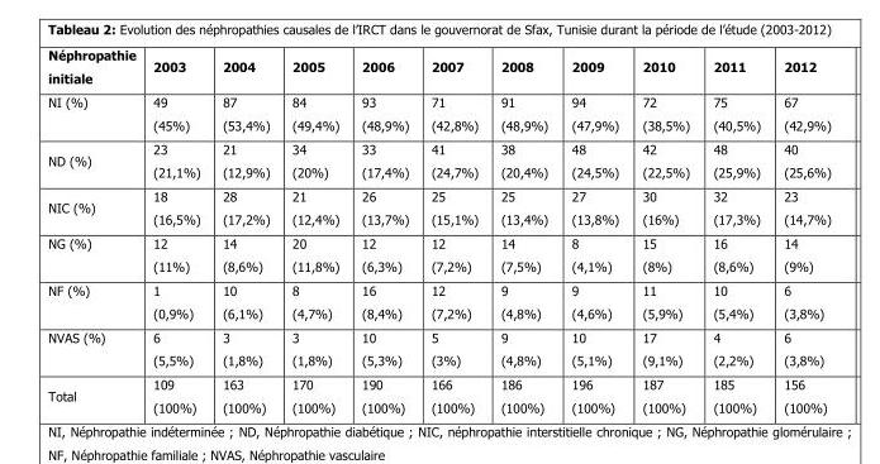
<table><thead><tr><td>Néphropathie initiale</td><td>2003</td><td>2004</td><td>2005</td><td>2006</td><td>2007</td><td>2008</td><td>2009</td><td>2010</td><td>2011</td><td>2012</td></tr></thead><tbody><tr><td>NI (%)</td><td>49 (45%)</td><td>87 (53,4%)</td><td>84 (49,4%)</td><td>93 (48,9%)</td><td>71 (42,8%)</td><td>91 (48,9%)</td><td>94 (47,9%)</td><td>72 (38,5%)</td><td>75 (40,5%)</td><td>67 (42,9%)</td></tr><tr><td>ND (%)</td><td>23 (21,1%)</td><td>21 (12,9%)</td><td>34 (20%)</td><td>33 (17,4%)</td><td>41 (24,7%)</td><td>38 (20,4%)</td><td>48 (24,5%)</td><td>42 (22,5%)</td><td>48 (25,9%)</td><td>40 (25,6%)</td></tr><tr><td>NIC (%)</td><td>18 (16,5%)</td><td>28 (17,2%)</td><td>21 (12,4%)</td><td>26 (13,7%)</td><td>25 (15,1%)</td><td>25 (13,4%)</td><td>27 (13,8%)</td><td>30 (16%)</td><td>32 (17,3%)</td><td>23 (14,7%)</td></tr><tr><td>NG (%)</td><td>12 (11%)</td><td>14 (8,6%)</td><td>20 (11,8%)</td><td>12 (6,3%)</td><td>12 (7,2%)</td><td>14 (7,5%)</td><td>8 (4,1%)</td><td>15 (8%)</td><td>16 (8,6%)</td><td>14 (9%)</td></tr><tr><td>NF (%)</td><td>1 (0,9%)</td><td>10 (6,1%)</td><td>8 (4,7%)</td><td>16 (8,4%)</td><td>12 (7,2%)</td><td>9 (4,8%)</td><td>9 (4,6%)</td><td>11 (5,9%)</td><td>10 (5,4%)</td><td>6 (3,8%)</td></tr><tr><td>NVAS (%)</td><td>6 (5,5%)</td><td>3 (1,8%)</td><td>3 (1,8%)</td><td>10 (5,3%)</td><td>5 (3%)</td><td>9 (4,8%)</td><td>10 (5,1%)</td><td>17 (9,1%)</td><td>4 (2,2%)</td><td>6 (3,8%)</td></tr><tr><td>Total</td><td>109 (100%)</td><td>163 (100%)</td><td>170 (100%)</td><td>190 (100%)</td><td>166 (100%)</td><td>186 (100%)</td><td>196 (100%)</td><td>187 (100%)</td><td>185 (100%)</td><td>156 (100%)</td></tr></tbody></table>